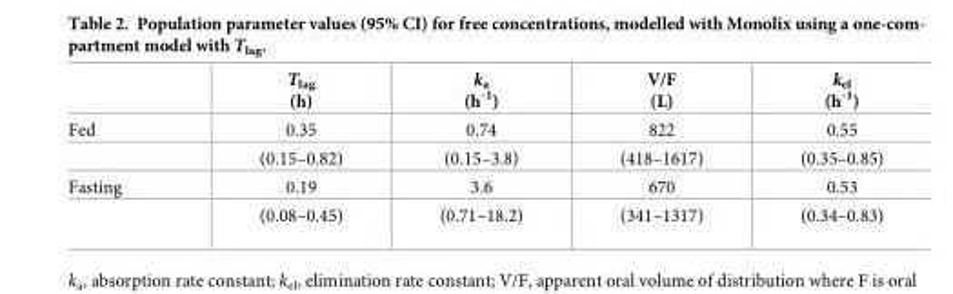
<table><thead><tr><td></td><td>T<sub>lag</sub> (h)</td><td>k<sub>a</sub> (h<sup>-1</sup>)</td><td>V/F (L)</td><td>k<sub>el</sub> (h<sup>-1</sup>)</td></tr></thead><tbody><tr><td rowspan="2">Fed</td><td>0.35</td><td>0.74</td><td>822</td><td>0.55</td></tr><tr><td>(0.15–0.82)</td><td>(0.15–3.8)</td><td>(418–1617)</td><td>(0.35–0.85)</td></tr><tr><td rowspan="2">Fasting</td><td>0.19</td><td>3.6</td><td>670</td><td>0.53</td></tr><tr><td>(0.08–0.45)</td><td>(0.71–18.2)</td><td>(341–1317)</td><td>(0.34–0.83)</td></tr></tbody></table>